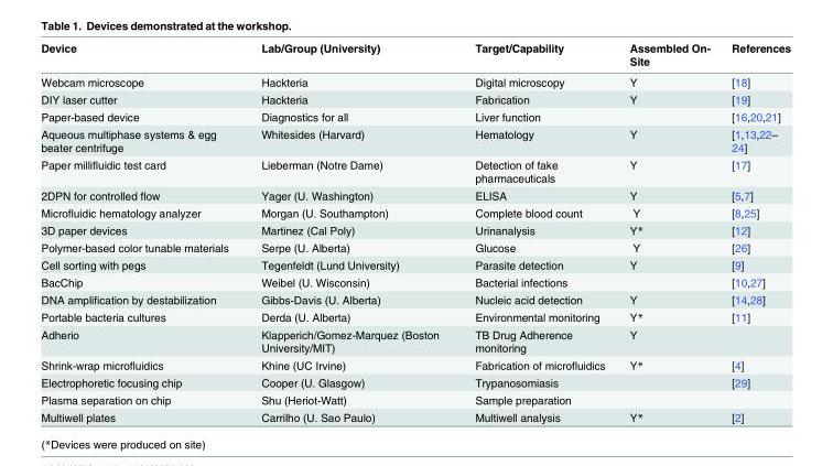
<table><thead><tr><td>Device</td><td>Lab/Group (University)</td><td>Target/Capability</td><td>Assembled On- Site</td><td>References</td></tr></thead><tbody><tr><td>Webcam microscope</td><td>Hackteria</td><td>Digital microscopy</td><td>Y</td><td>[18]</td></tr><tr><td>DIY laser cutter</td><td>Hackteria</td><td>Fabrication</td><td>Y</td><td>[19]</td></tr><tr><td>Paper-based device</td><td>Diagnostics for all</td><td>Liver function</td><td></td><td>[16,20,21]</td></tr><tr><td>Aqueous multiphase systems &amp; egg beater centrifuge</td><td>Whitesides (Harvard)</td><td>Hematology</td><td>Y</td><td>[1,13,22– 24]</td></tr><tr><td>Paper millifluidic test card</td><td>Lieberman (Notre Dame)</td><td>Detection of fake pharmaceuticals</td><td>Y</td><td>[17]</td></tr><tr><td>2DPN for controlled flow</td><td>Yager (U. Washington)</td><td>ELISA</td><td>Y</td><td>[5,7]</td></tr><tr><td>Microfluidic hematology analyzer</td><td>Morgan (U. Southampton)</td><td>Complete blood count</td><td>Y</td><td>[8,25]</td></tr><tr><td>3D paper devices</td><td>Martinez (Cal Poly)</td><td>Urinanalysis</td><td>Y*</td><td>[12]</td></tr><tr><td>Polymer-based color tunable materials</td><td>Serpe (U. Alberta)</td><td>Glucose</td><td>Y</td><td>[26]</td></tr><tr><td>Cell sorting with pegs</td><td>Tegenfeldt (Lund University)</td><td>Parasite detection</td><td>Y</td><td>[9]</td></tr><tr><td>BacChip</td><td>Weibel (U. Wisconsin)</td><td>Bacterial infections</td><td></td><td>[10,27]</td></tr><tr><td>DNA amplification by destabilization</td><td>Gibbs-Davis (U. Alberta)</td><td>Nucleic acid detection</td><td>Y</td><td>[14,28]</td></tr><tr><td>Portable bacteria cultures</td><td>Derda (U. Alberta)</td><td>Environmental monitoring</td><td>Y*</td><td>[11]</td></tr><tr><td>Adherio</td><td>Klapperich/Gomez-Marquez (Boston University/MIT)</td><td>TB Drug Adherence monitoring</td><td>Y</td><td></td></tr><tr><td>Shrink-wrap microfluidics</td><td>Khine (UC Irvine)</td><td>Fabrication of microfluidics</td><td>Y*</td><td>[4]</td></tr><tr><td>Electrophoretic focusing chip</td><td>Cooper (U. Glasgow)</td><td>Trypanosomiasis</td><td></td><td>[29]</td></tr><tr><td>Plasma separation on chip</td><td>Shu (Heriot-Watt)</td><td>Sample preparation</td><td></td><td></td></tr><tr><td>Multiwell plates</td><td>Carrilho (U. Sao Paulo)</td><td>Multiwell analysis</td><td>Y*</td><td>[2]</td></tr></tbody></table>